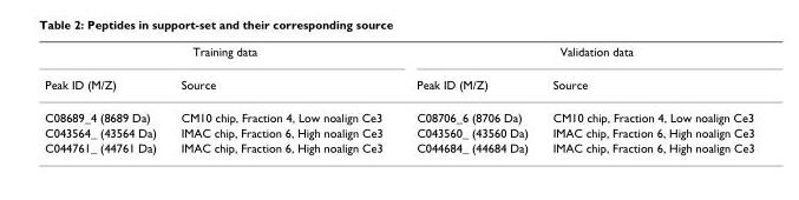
<table><thead><tr><td colspan="2">Training data</td><td colspan="2">Validation data</td></tr><tr><td>Peak ID (M/Z)</td><td>Source</td><td>Peak ID (M/Z)</td><td>Source</td></tr></thead><tbody><tr><td>C08689_4 (8689 Da)</td><td>CM10 chip, Fraction 4, Low noalign Ce3</td><td>C08706_6 (8706 Da)</td><td>CM10 chip, Fraction 4, Low noalign Ce3</td></tr><tr><td>C043564_ (43564 Da)</td><td>IMAC chip, Fraction 6, High noalign Ce3</td><td>C043560_ (43560 Da)</td><td>IMAC chip, Fraction 6, High noalign Ce3</td></tr><tr><td>C044761_ (44761 Da)</td><td>IMAC chip, Fraction 6, High noalign Ce3</td><td>C044684_ (44684 Da)</td><td>IMAC chip, Fraction 6, High noalign Ce3</td></tr></tbody></table>